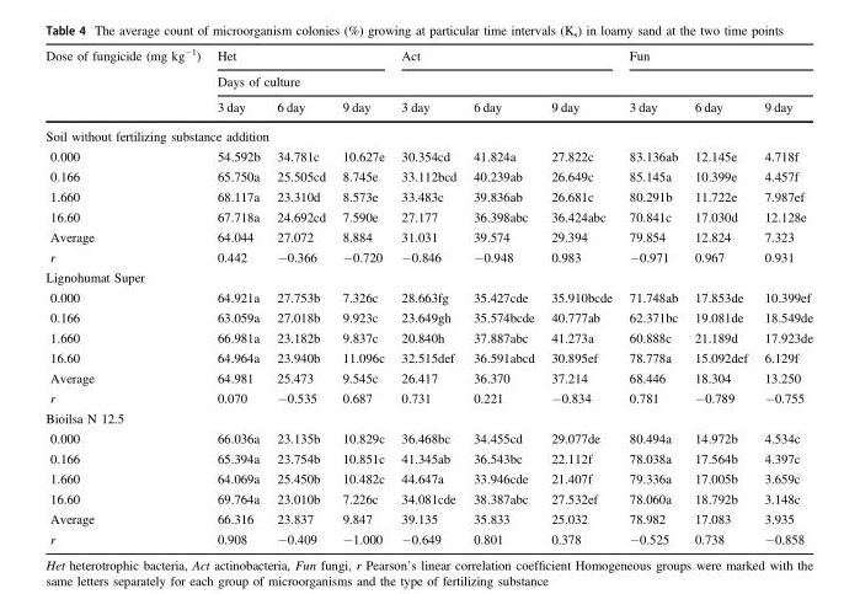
<table><thead><tr><td rowspan="3">Dose of fungicide (mg kg<sup>−1</sup>)</td><td colspan="3">Het</td><td colspan="3">Act</td><td colspan="3">Fun</td></tr><tr><td colspan="9">Days of culture</td></tr><tr><td>3 day</td><td>6 day</td><td>9 day</td><td>3 day</td><td>6 day</td><td>9 day</td><td>3 day</td><td>6 day</td><td>9 day</td></tr></thead><tbody><tr><td colspan="10">Soil without fertilizing substance addition</td></tr><tr><td>0.000</td><td>54.592b</td><td>34.781c</td><td>10.627e</td><td>30.354cd</td><td>41.824a</td><td>27.822c</td><td>83.136ab</td><td>12.145e</td><td>4.718f</td></tr><tr><td>0.166</td><td>65.750a</td><td>25.505cd</td><td>8.745e</td><td>33.112bcd</td><td>40.239ab</td><td>26.649c</td><td>85.145a</td><td>10.399e</td><td>4.457f</td></tr><tr><td>1.660</td><td>68.117a</td><td>23.310d</td><td>8.573e</td><td>33.483c</td><td>39.836ab</td><td>26.681c</td><td>80.291b</td><td>11.722e</td><td>7.987ef</td></tr><tr><td>16.60</td><td>67.718a</td><td>24.692cd</td><td>7.590e</td><td>27.177</td><td>36.398abc</td><td>36.424abc</td><td>70.841c</td><td>17.030d</td><td>12.128e</td></tr><tr><td>Average</td><td>64.044</td><td>27.072</td><td>8.884</td><td>31.031</td><td>39.574</td><td>29.394</td><td>79.854</td><td>12.824</td><td>7.323</td></tr><tr><td>r</td><td>0.442</td><td>−0.366</td><td>−0.720</td><td>−0.846</td><td>−0.948</td><td>0.983</td><td>−0.971</td><td>0.967</td><td>0.931</td></tr><tr><td colspan="10">Lignohumat Super</td></tr><tr><td>0.000</td><td>64.921a</td><td>27.753b</td><td>7.326c</td><td>28.663fg</td><td>35.427cde</td><td>35.910bcde</td><td>71.748ab</td><td>17.853de</td><td>10.399ef</td></tr><tr><td>0.166</td><td>63.059a</td><td>27.018b</td><td>9.923c</td><td>23.649gh</td><td>35.574bcde</td><td>40.777ab</td><td>62.371bc</td><td>19.081de</td><td>18.549de</td></tr><tr><td>1.660</td><td>66.981a</td><td>23.182b</td><td>9.837c</td><td>20.840h</td><td>37.887abc</td><td>41.273a</td><td>60.888c</td><td>21.189d</td><td>17.923de</td></tr><tr><td>16.60</td><td>64.964a</td><td>23.940b</td><td>11.096c</td><td>32.515def</td><td>36.591abcd</td><td>30.895ef</td><td>78.778a</td><td>15.092def</td><td>6.129f</td></tr><tr><td>Average</td><td>64.981</td><td>25.473</td><td>9.545c</td><td>26.417</td><td>36.370</td><td>37.214</td><td>68.446</td><td>18.304</td><td>13.250</td></tr><tr><td>r</td><td>0.070</td><td>−0.535</td><td>0.687</td><td>0.731</td><td>0.221</td><td>−0.834</td><td>0.781</td><td>−0.789</td><td>−0.755</td></tr><tr><td colspan="10">Bioilsa N 12.5</td></tr><tr><td>0.000</td><td>66.036a</td><td>23.135b</td><td>10.829c</td><td>36.468bc</td><td>34.455cd</td><td>29.077de</td><td>80.494a</td><td>14.972b</td><td>4.534c</td></tr><tr><td>0.166</td><td>65.394a</td><td>23.754b</td><td>10.851c</td><td>41.345ab</td><td>36.543bc</td><td>22.112f</td><td>78.038a</td><td>17.564b</td><td>4.397c</td></tr><tr><td>1.660</td><td>64.069a</td><td>25.450b</td><td>10.482c</td><td>44.647a</td><td>33.946cde</td><td>21.407f</td><td>79.336a</td><td>17.005b</td><td>3.659c</td></tr><tr><td>16.60</td><td>69.764a</td><td>23.010b</td><td>7.226c</td><td>34.081cde</td><td>38.387abc</td><td>27.532ef</td><td>78.060a</td><td>18.792b</td><td>3.148c</td></tr><tr><td>Average</td><td>66.316</td><td>23.837</td><td>9.847</td><td>39.135</td><td>35.833</td><td>25.032</td><td>78.982</td><td>17.083</td><td>3.935</td></tr><tr><td>r</td><td>0.908</td><td>−0.409</td><td>−1.000</td><td>−0.649</td><td>0.801</td><td>0.378</td><td>−0.525</td><td>0.738</td><td>−0.858</td></tr></tbody></table>